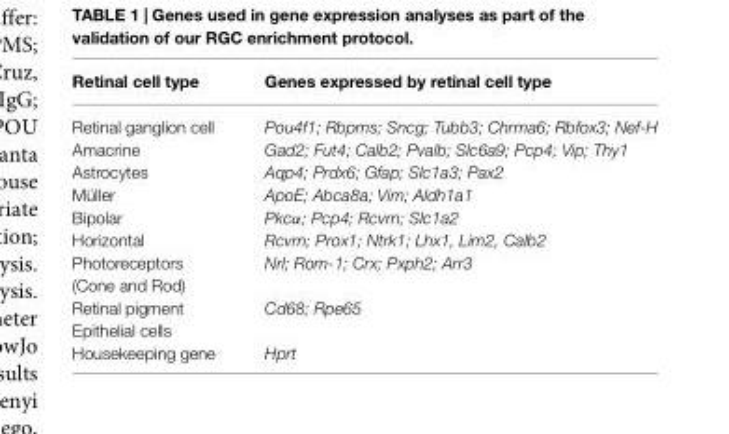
<table><thead><tr><td>Retinal cell type</td><td>Genes expressed by retinal cell type</td></tr></thead><tbody><tr><td>Retinal ganglion cell</td><td>Pou4f1; Rbpms; Sncg; Tubb3; Chrma6; Rbfox3; Nef-H</td></tr><tr><td>Amacrine</td><td>Gad2; Fut4; Calb2; Pvalb; Slc6a9; Pcp4; Vip; Thy1</td></tr><tr><td>Astrocytes</td><td>Aqp4; Prdx6; Gfap; Slc1a3; Pax2</td></tr><tr><td>Müller</td><td>ApoE; Abca8a; Vim; Aldh1a1</td></tr><tr><td>Bipolar</td><td>Pkcα; Pcp4; Rcvrn; Slc1a2</td></tr><tr><td>Horizontal</td><td>Rcvrn; Prox1; Ntrk1; Lhx1, Lim2, Calb2</td></tr><tr><td>Photoreceptors</td><td>Nrl; Rom-1; Crx; Pxph2; Arr3</td></tr><tr><td colspan="2">(Cone and Rod)</td></tr><tr><td>Retinal pigment</td><td>Cd68; Rpe65</td></tr><tr><td colspan="2">Epithelial cells</td></tr><tr><td>Housekeeping gene</td><td>Hprt</td></tr></tbody></table>